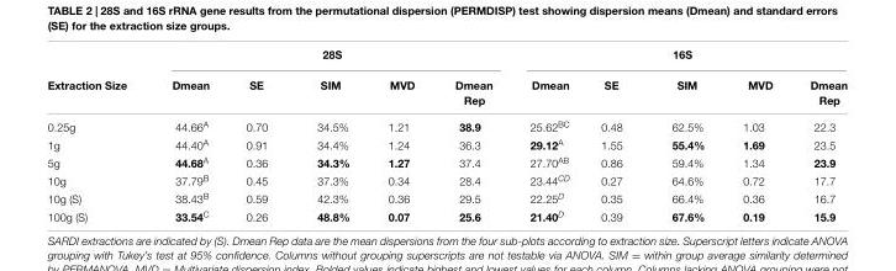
<table><thead><tr><td rowspan="2">Extraction Size</td><td colspan="5">28S</td><td colspan="5">16S</td></tr><tr><td>Dmean</td><td>SE</td><td>SIM</td><td>MVD</td><td>Dmean Rep</td><td>Dmean</td><td>SE</td><td>SIM</td><td>MVD</td><td>Dmean Rep</td></tr></thead><tbody><tr><td>0.25g</td><td>44.66<sup>A</sup></td><td>0.70</td><td>34.5%</td><td>1.21</td><td>38.9</td><td>25.62<sup>BC</sup></td><td>0.48</td><td>62.5%</td><td>1.03</td><td>22.3</td></tr><tr><td>1g</td><td>44.40<sup>A</sup></td><td>0.91</td><td>34.4%</td><td>1.24</td><td>36.3</td><td>29.12<sup>A</sup></td><td>1.55</td><td>55.4%</td><td>1.69</td><td>23.5</td></tr><tr><td>5g</td><td>44.68<sup>A</sup></td><td>0.36</td><td>34.3%</td><td>1.27</td><td>37.4</td><td>27.70<sup>AB</sup></td><td>0.86</td><td>59.4%</td><td>1.34</td><td>23.9</td></tr><tr><td>10g</td><td>37.79<sup>B</sup></td><td>0.45</td><td>37.3%</td><td>0.34</td><td>28.4</td><td>23.44<sup>CD</sup></td><td>0.27</td><td>64.6%</td><td>0.72</td><td>17.7</td></tr><tr><td>10g (S)</td><td>38.43<sup>B</sup></td><td>0.59</td><td>42.3%</td><td>0.36</td><td>29.5</td><td>22.25<sup>D</sup></td><td>0.35</td><td>66.4%</td><td>0.36</td><td>16.7</td></tr><tr><td>100g (S)</td><td>33.54<sup>C</sup></td><td>0.26</td><td>48.8%</td><td>0.07</td><td>25.6</td><td>21.40<sup>D</sup></td><td>0.39</td><td>67.6%</td><td>0.19</td><td>15.9</td></tr></tbody></table>